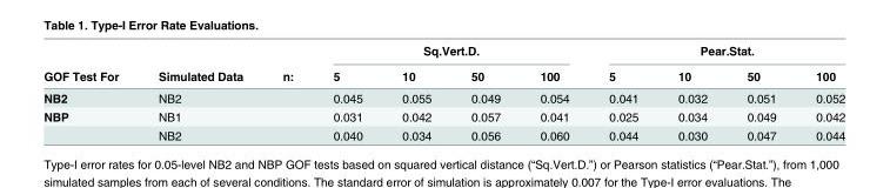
<table><thead><tr><td rowspan="2">GOF Test For</td><td rowspan="2">Simulated Data</td><td rowspan="2">n:</td><td colspan="4">Sq.Vert.D.</td><td colspan="4">Pear.Stat.</td></tr><tr><td>5</td><td>10</td><td>50</td><td>100</td><td>5</td><td>10</td><td>50</td><td>100</td></tr></thead><tbody><tr><td>NB2</td><td>NB2</td><td></td><td>0.045</td><td>0.055</td><td>0.049</td><td>0.054</td><td>0.041</td><td>0.032</td><td>0.051</td><td>0.052</td></tr><tr><td rowspan="2">NBP</td><td>NB1</td><td></td><td>0.031</td><td>0.042</td><td>0.057</td><td>0.041</td><td>0.025</td><td>0.034</td><td>0.049</td><td>0.042</td></tr><tr><td>NB2</td><td></td><td>0.040</td><td>0.034</td><td>0.056</td><td>0.060</td><td>0.044</td><td>0.030</td><td>0.047</td><td>0.044</td></tr></tbody></table>